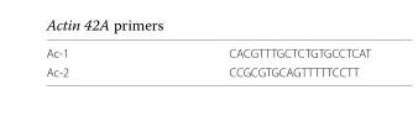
<table><tbody><tr><td>Ac-1</td><td>CACGTTTGCTCTGTGCCTCAT</td></tr><tr><td>Ac-2</td><td>CCGCGTGCAGTTTTTCCTT</td></tr></tbody></table>